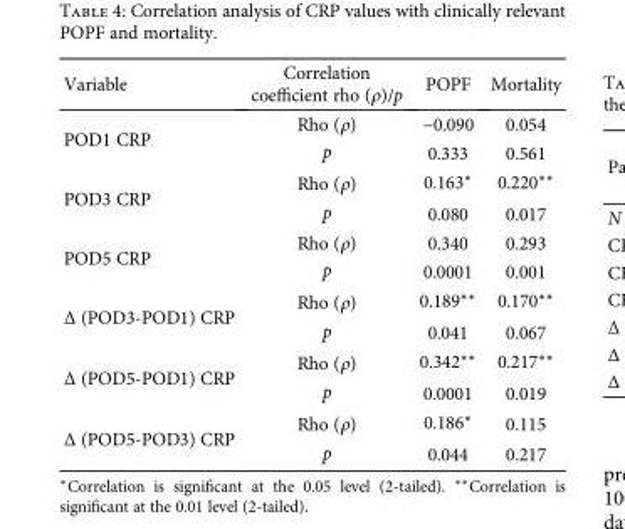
<table><thead><tr><td>Variable</td><td>Correlation coefficient rho (ρ)/p</td><td>POPF</td><td>Mortality</td></tr></thead><tbody><tr><td rowspan="2">POD1 CRP</td><td>Rho (ρ)</td><td>−0.090</td><td>0.054</td></tr><tr><td>p</td><td>0.333</td><td>0.561</td></tr><tr><td rowspan="2">POD3 CRP</td><td>Rho (ρ)</td><td>0.163∗</td><td>0.220∗∗</td></tr><tr><td>p</td><td>0.080</td><td>0.017</td></tr><tr><td rowspan="2">POD5 CRP</td><td>Rho (ρ)</td><td>0.340</td><td>0.293</td></tr><tr><td>p</td><td>0.0001</td><td>0.001</td></tr><tr><td rowspan="2">Δ (POD3-POD1) CRP</td><td>Rho (ρ)</td><td>0.189∗∗</td><td>0.170∗∗</td></tr><tr><td>p</td><td>0.041</td><td>0.067</td></tr><tr><td rowspan="2">Δ (POD5-POD1) CRP</td><td>Rho (ρ)</td><td>0.342∗∗</td><td>0.217∗∗</td></tr><tr><td>p</td><td>0.0001</td><td>0.019</td></tr><tr><td rowspan="2">Δ (POD5-POD3) CRP</td><td>Rho (ρ)</td><td>0.186∗</td><td>0.115</td></tr><tr><td>p</td><td>0.044</td><td>0.217</td></tr></tbody></table>